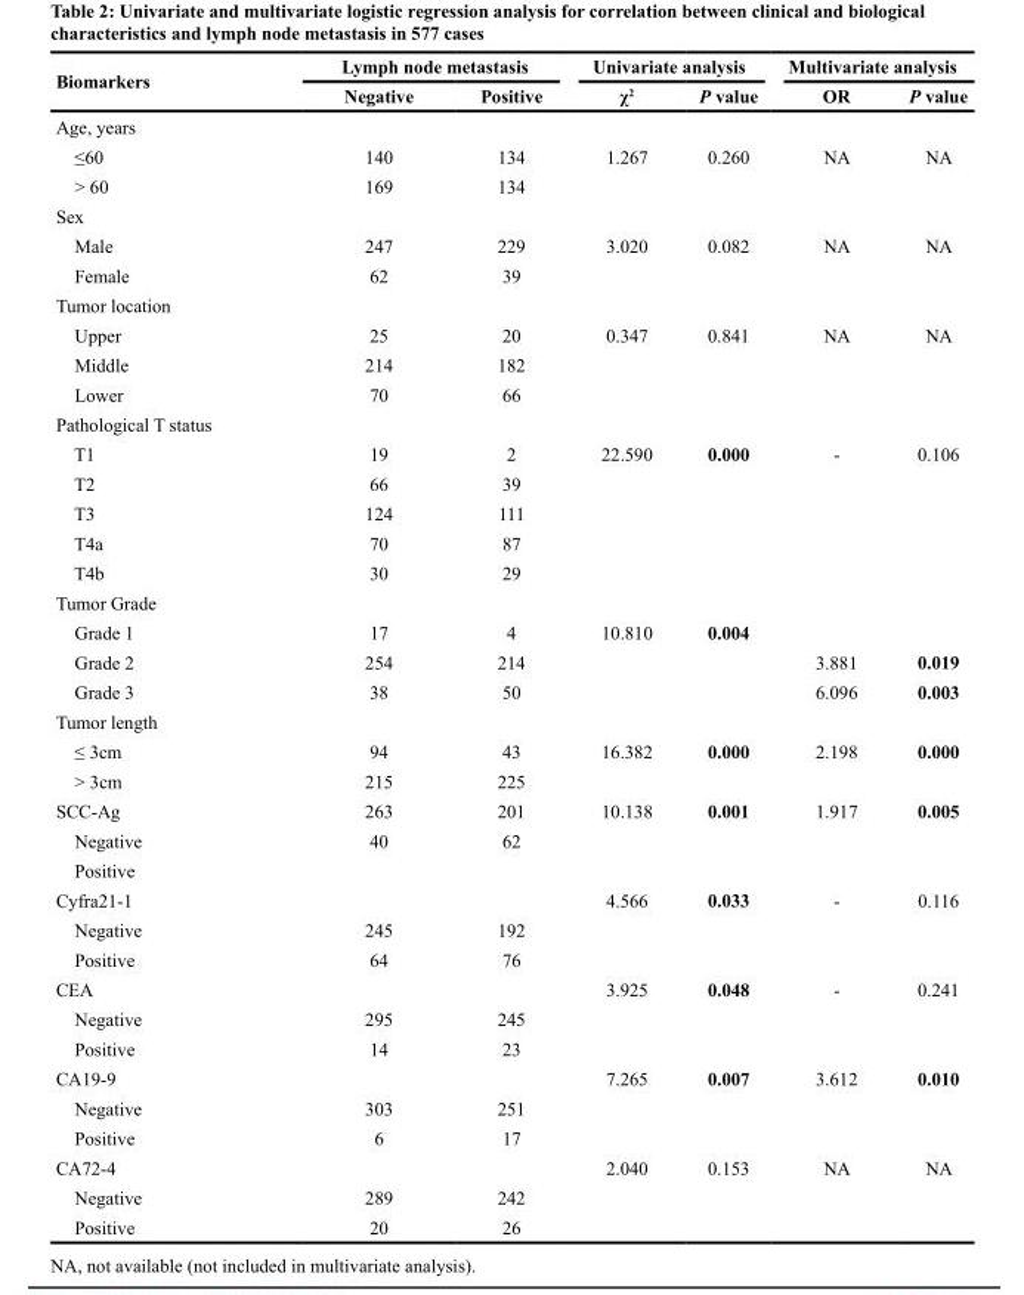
<table><thead><tr><td rowspan="2">Biomarkers</td><td colspan="2">Lymph node metastasis</td><td colspan="2">Univariate analysis</td><td colspan="2">Multivariate analysis</td></tr><tr><td>Negative</td><td>Positive</td><td>χ<sup>2</sup></td><td>P value</td><td>OR</td><td>P value</td></tr></thead><tbody><tr><td colspan="7">Age, years</td></tr><tr><td>≤60</td><td>140</td><td>134</td><td>1.267</td><td>0.260</td><td>NA</td><td>NA</td></tr><tr><td>&gt; 60</td><td>169</td><td>134</td><td></td><td></td><td></td><td></td></tr><tr><td colspan="7">Sex</td></tr><tr><td>Male</td><td>247</td><td>229</td><td>3.020</td><td>0.082</td><td>NA</td><td>NA</td></tr><tr><td>Female</td><td>62</td><td>39</td><td></td><td></td><td></td><td></td></tr><tr><td colspan="7">Tumor location</td></tr><tr><td>Upper</td><td>25</td><td>20</td><td>0.347</td><td>0.841</td><td>NA</td><td>NA</td></tr><tr><td>Middle</td><td>214</td><td>182</td><td></td><td></td><td></td><td></td></tr><tr><td>Lower</td><td>70</td><td>66</td><td></td><td></td><td></td><td></td></tr><tr><td colspan="7">Pathological T status</td></tr><tr><td>T1</td><td>19</td><td>2</td><td>22.590</td><td>0.000</td><td>-</td><td>0.106</td></tr><tr><td>T2</td><td>66</td><td>39</td><td></td><td></td><td></td><td></td></tr><tr><td>T3</td><td>124</td><td>111</td><td></td><td></td><td></td><td></td></tr><tr><td>T4a</td><td>70</td><td>87</td><td></td><td></td><td></td><td></td></tr><tr><td>T4b</td><td>30</td><td>29</td><td></td><td></td><td></td><td></td></tr><tr><td colspan="7">Tumor Grade</td></tr><tr><td>Grade 1</td><td>17</td><td>4</td><td>10.810</td><td>0.004</td><td></td><td></td></tr><tr><td>Grade 2</td><td>254</td><td>214</td><td></td><td></td><td>3.881</td><td>0.019</td></tr><tr><td>Grade 3</td><td>38</td><td>50</td><td></td><td></td><td>6.096</td><td>0.003</td></tr><tr><td colspan="7">Tumor length</td></tr><tr><td>≤ 3cm</td><td>94</td><td>43</td><td>16.382</td><td>0.000</td><td>2.198</td><td>0.000</td></tr><tr><td>&gt; 3cm</td><td>215</td><td>225</td><td></td><td></td><td></td><td></td></tr><tr><td>SCC-Ag</td><td>263</td><td>201</td><td>10.138</td><td>0.001</td><td>1.917</td><td>0.005</td></tr><tr><td>Negative</td><td>40</td><td>62</td><td></td><td></td><td></td><td></td></tr><tr><td colspan="7">Positive</td></tr><tr><td>Cyfra21-1</td><td></td><td></td><td>4.566</td><td>0.033</td><td>-</td><td>0.116</td></tr><tr><td>Negative</td><td>245</td><td>192</td><td></td><td></td><td></td><td></td></tr><tr><td>Positive</td><td>64</td><td>76</td><td></td><td></td><td></td><td></td></tr><tr><td>CEA</td><td></td><td></td><td>3.925</td><td>0.048</td><td>-</td><td>0.241</td></tr><tr><td>Negative</td><td>295</td><td>245</td><td></td><td></td><td></td><td></td></tr><tr><td>Positive</td><td>14</td><td>23</td><td></td><td></td><td></td><td></td></tr><tr><td>CA19-9</td><td></td><td></td><td>7.265</td><td>0.007</td><td>3.612</td><td>0.010</td></tr><tr><td>Negative</td><td>303</td><td>251</td><td></td><td></td><td></td><td></td></tr><tr><td>Positive</td><td>6</td><td>17</td><td></td><td></td><td></td><td></td></tr><tr><td>CA72-4</td><td></td><td></td><td>2.040</td><td>0.153</td><td>NA</td><td>NA</td></tr><tr><td>Negative</td><td>289</td><td>242</td><td></td><td></td><td></td><td></td></tr><tr><td>Positive</td><td>20</td><td>26</td><td></td><td></td><td></td><td></td></tr></tbody></table>